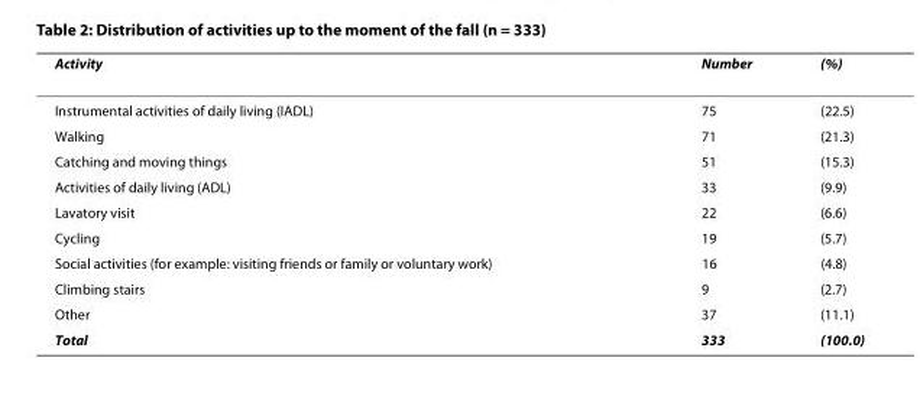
<table><thead><tr><td>Activity</td><td>Number</td><td>(%)</td></tr></thead><tbody><tr><td>Instrumental activities of daily living (IADL)</td><td>75</td><td>(22.5)</td></tr><tr><td>Walking</td><td>71</td><td>(21.3)</td></tr><tr><td>Catching and moving things</td><td>51</td><td>(15.3)</td></tr><tr><td>Activities of daily living (ADL)</td><td>33</td><td>(9.9)</td></tr><tr><td>Lavatory visit</td><td>22</td><td>(6.6)</td></tr><tr><td>Cycling</td><td>19</td><td>(5.7)</td></tr><tr><td>Social activities (for example: visiting friends or family or voluntary work)</td><td>16</td><td>(4.8)</td></tr><tr><td>Climbing stairs</td><td>9</td><td>(2.7)</td></tr><tr><td>Other</td><td>37</td><td>(11.1)</td></tr><tr><td>Total</td><td>333</td><td>(100.0)</td></tr></tbody></table>